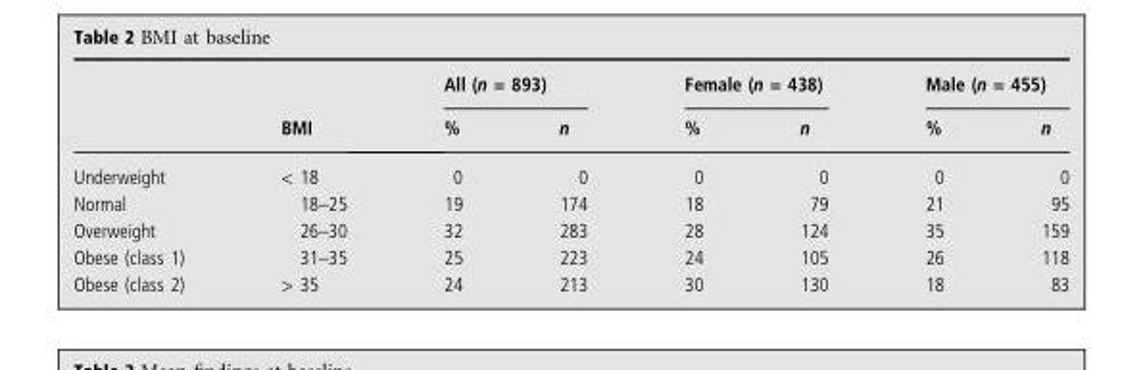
<table><thead><tr><td rowspan="2"></td><td rowspan="2">BMI</td><td colspan="2">All (n = 893)</td><td colspan="2">Female (n = 438)</td><td colspan="2">Male (n = 455)</td></tr><tr><td>%</td><td>n</td><td>%</td><td>n</td><td>%</td><td>n</td></tr></thead><tbody><tr><td>Underweight</td><td>&lt; 18</td><td>0</td><td>0</td><td>0</td><td>0</td><td>0</td><td>0</td></tr><tr><td>Normal</td><td>18–25</td><td>19</td><td>174</td><td>18</td><td>79</td><td>21</td><td>95</td></tr><tr><td>Overweight</td><td>26–30</td><td>32</td><td>283</td><td>28</td><td>124</td><td>35</td><td>159</td></tr><tr><td>Obese (class 1)</td><td>31–35</td><td>25</td><td>223</td><td>24</td><td>105</td><td>26</td><td>118</td></tr><tr><td>Obese (class 2)</td><td>&gt; 35</td><td>24</td><td>213</td><td>30</td><td>130</td><td>18</td><td>83</td></tr></tbody></table>